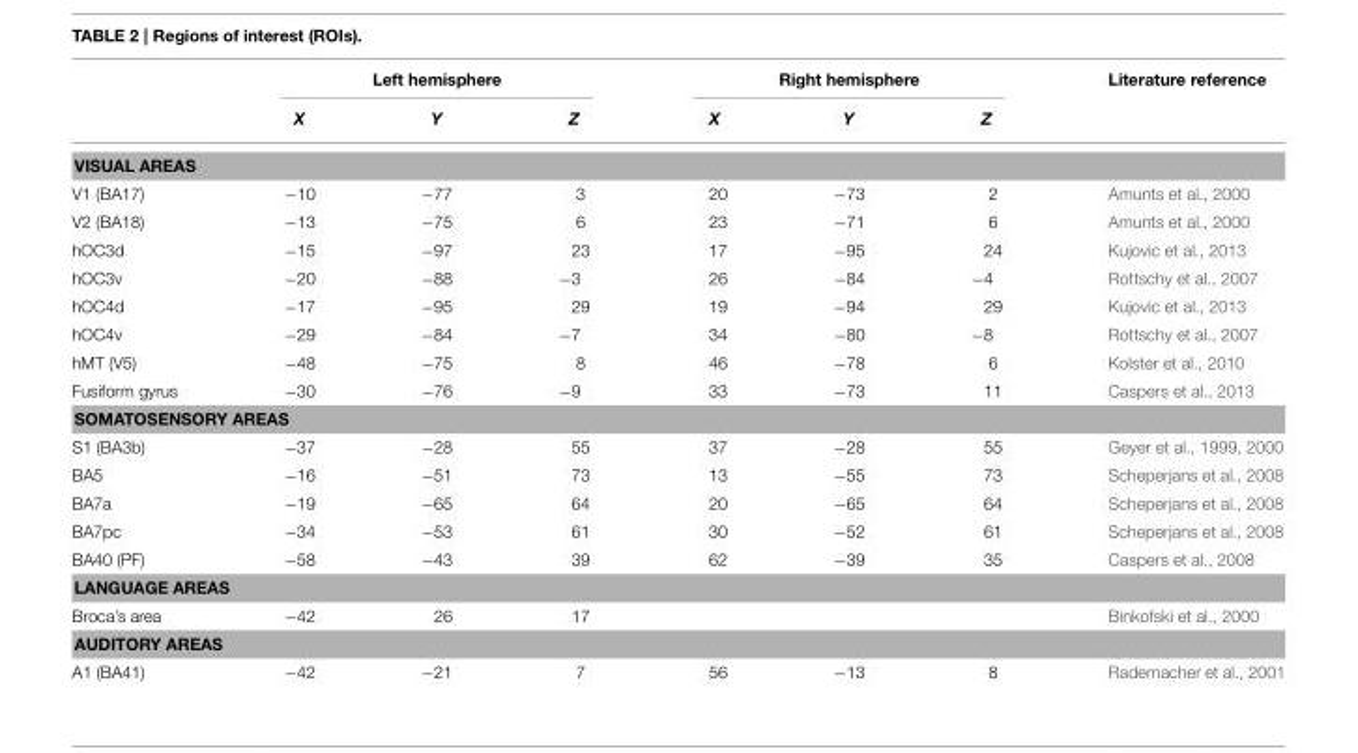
<table><thead><tr><td rowspan="2"></td><td colspan="3">Left hemisphere</td><td colspan="3">Right hemisphere</td><td rowspan="2">Literature reference</td></tr><tr><td>X</td><td>Y</td><td>Z</td><td>X</td><td>Y</td><td>Z</td></tr></thead><tbody><tr><td colspan="8">VISUAL AREAS</td></tr><tr><td>V1 (BA17)</td><td>−10</td><td>−77</td><td>3</td><td>20</td><td>−73</td><td>2</td><td>Amunts et al., 2000</td></tr><tr><td>V2 (BA18)</td><td>−13</td><td>−75</td><td>6</td><td>23</td><td>−71</td><td>6</td><td>Amunts et al., 2000</td></tr><tr><td>hOC3d</td><td>−15</td><td>−97</td><td>23</td><td>17</td><td>−95</td><td>24</td><td>Kujovic et al., 2013</td></tr><tr><td>hOC3v</td><td>−20</td><td>−88</td><td>−3</td><td>26</td><td>−84</td><td>−4</td><td>Rottschy et al., 2007</td></tr><tr><td>hOC4d</td><td>−17</td><td>−95</td><td>29</td><td>19</td><td>−94</td><td>29</td><td>Kujovic et al., 2013</td></tr><tr><td>hOC4v</td><td>−29</td><td>−84</td><td>−7</td><td>34</td><td>−80</td><td>−8</td><td>Rottschy et al., 2007</td></tr><tr><td>hMT (V5)</td><td>−48</td><td>−75</td><td>8</td><td>46</td><td>−78</td><td>6</td><td>Kolster et al., 2010</td></tr><tr><td>Fusiform gyrus</td><td>−30</td><td>−76</td><td>−9</td><td>33</td><td>−73</td><td>11</td><td>Caspers et al., 2013</td></tr><tr><td colspan="8">SOMATOSENSORY AREAS</td></tr><tr><td>S1 (BA3b)</td><td>−37</td><td>−28</td><td>55</td><td>37</td><td>−28</td><td>55</td><td>Geyer et al., 1999, 2000</td></tr><tr><td>BA5</td><td>−16</td><td>−51</td><td>73</td><td>13</td><td>−55</td><td>73</td><td>Scheperjans et al., 2008</td></tr><tr><td>BA7a</td><td>−19</td><td>−65</td><td>64</td><td>20</td><td>−65</td><td>64</td><td>Scheperjans et al., 2008</td></tr><tr><td>BA7pc</td><td>−34</td><td>−53</td><td>61</td><td>30</td><td>−52</td><td>61</td><td>Scheperjans et al., 2008</td></tr><tr><td>BA40 (PF)</td><td>−58</td><td>−43</td><td>39</td><td>62</td><td>−39</td><td>35</td><td>Caspers et al., 2008</td></tr><tr><td colspan="8">LANGUAGE AREAS</td></tr><tr><td>Broca’s area</td><td>−42</td><td>26</td><td>17</td><td></td><td></td><td></td><td>Binkofski et al., 2000</td></tr><tr><td colspan="8">AUDITORY AREAS</td></tr><tr><td>A1 (BA41)</td><td>−42</td><td>−21</td><td>7</td><td>56</td><td>−13</td><td>8</td><td>Rademacher et al., 2001</td></tr></tbody></table>